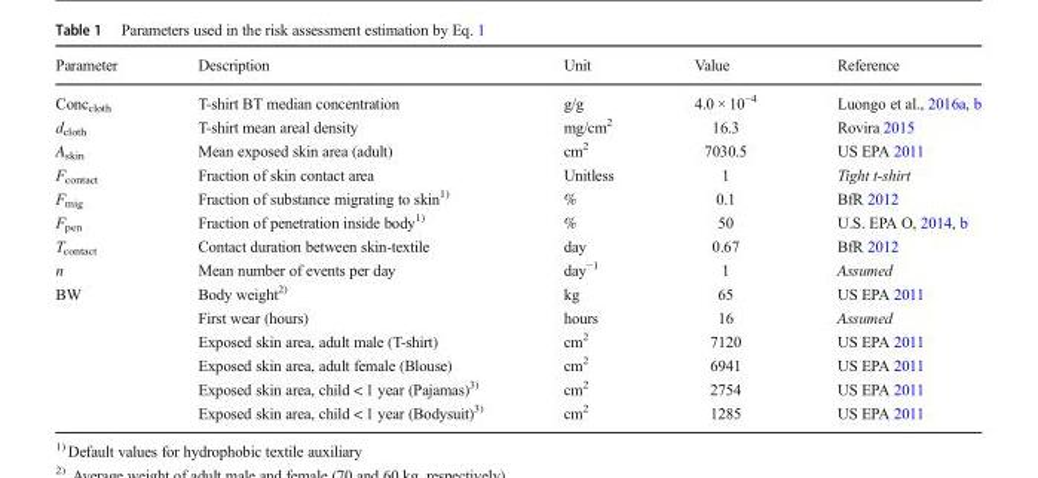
<table><thead><tr><td>Parameter</td><td>Description</td><td>Unit</td><td>Value</td><td>Reference</td></tr></thead><tbody><tr><td>Conc<sub>cloth</sub></td><td>T-shirt BT median concentration</td><td>g/g</td><td>4.0 × 10<sup>−4</sup></td><td>Luongo et al., 2016a, b</td></tr><tr><td>d<sub>cloth</sub></td><td>T-shirt mean areal density</td><td>mg/cm<sup>2</sup></td><td>16.3</td><td>Rovira 2015</td></tr><tr><td>A<sub>skin</sub></td><td>Mean exposed skin area (adult)</td><td>cm<sup>2</sup></td><td>7030.5</td><td>US EPA 2011</td></tr><tr><td>F<sub>contact</sub></td><td>Fraction of skin contact area</td><td>Unitless</td><td>1</td><td>Tight t-shirt</td></tr><tr><td>F<sub>mig</sub></td><td>Fraction of substance migrating to skin<sup>1)</sup></td><td>%</td><td>0.1</td><td>BfR 2012</td></tr><tr><td>F<sub>pen</sub></td><td>Fraction of penetration inside body<sup>1)</sup></td><td>%</td><td>50</td><td>U.S. EPA O, 2014, b</td></tr><tr><td>T<sub>contact</sub></td><td>Contact duration between skin-textile</td><td>day</td><td>0.67</td><td>BfR 2012</td></tr><tr><td>n</td><td>Mean number of events per day</td><td>day<sup>−1</sup></td><td>1</td><td>Assumed</td></tr><tr><td rowspan="6">BW</td><td>Body weight<sup>2)</sup></td><td>kg</td><td>65</td><td>US EPA 2011</td></tr><tr><td>First wear (hours)</td><td>hours</td><td>16</td><td>Assumed</td></tr><tr><td>Exposed skin area, adult male (T-shirt)</td><td>cm<sup>2</sup></td><td>7120</td><td>US EPA 2011</td></tr><tr><td>Exposed skin area, adult female (Blouse)</td><td>cm<sup>2</sup></td><td>6941</td><td>US EPA 2011</td></tr><tr><td>Exposed skin area, child &lt; 1 year (Pajamas)<sup>3)</sup></td><td>cm<sup>2</sup></td><td>2754</td><td>US EPA 2011</td></tr><tr><td>Exposed skin area, child &lt; 1 year (Bodysuit)<sup>3)</sup></td><td>cm<sup>2</sup></td><td>1285</td><td>US EPA 2011</td></tr></tbody></table>